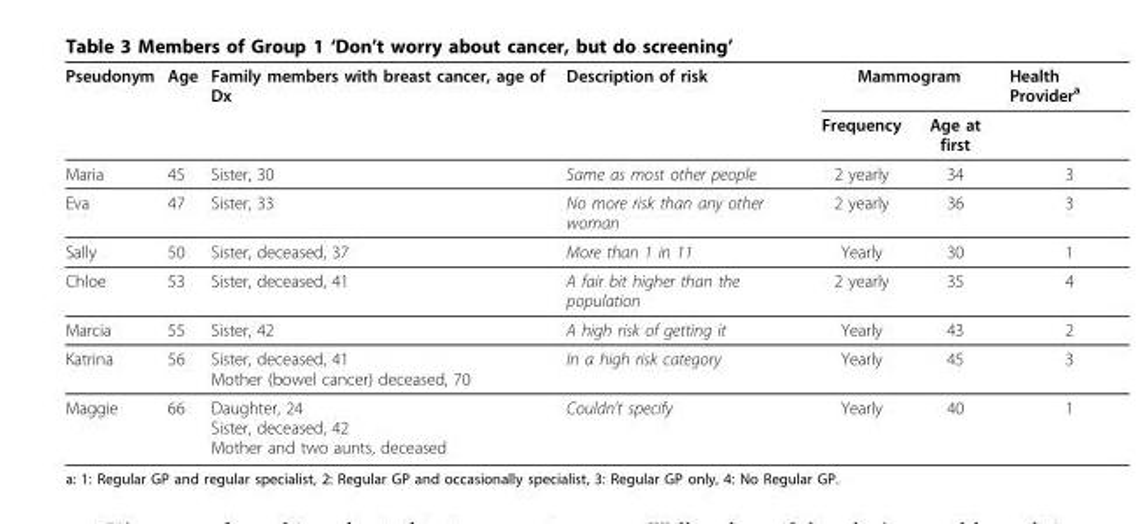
<table><thead><tr><td rowspan="2">Pseudonym</td><td rowspan="2">Age</td><td rowspan="2">Family members with breast cancer, age of Dx</td><td rowspan="2">Description of risk</td><td colspan="2">Mammogram</td><td rowspan="2">Health Provider<sup>a</sup></td></tr><tr><td>Frequency</td><td>Age at first</td></tr></thead><tbody><tr><td>Maria</td><td>45</td><td>Sister, 30</td><td>Same as most other people</td><td>2 yearly</td><td>34</td><td>3</td></tr><tr><td>Eva</td><td>47</td><td>Sister, 33</td><td>No more risk than any other woman</td><td>2 yearly</td><td>36</td><td>3</td></tr><tr><td>Sally</td><td>50</td><td>Sister, deceased, 37</td><td>More than 1 in 11</td><td>Yearly</td><td>30</td><td>1</td></tr><tr><td>Chloe</td><td>53</td><td>Sister, deceased, 41</td><td>A fair bit higher than the population</td><td>2 yearly</td><td>35</td><td>4</td></tr><tr><td>Marcia</td><td>55</td><td>Sister, 42</td><td>A high risk of getting it</td><td>Yearly</td><td>43</td><td>2</td></tr><tr><td>Katrina</td><td>56</td><td>Sister, deceased, 41 Mother (bowel cancer) deceased, 70</td><td>In a high risk category</td><td>Yearly</td><td>45</td><td>3</td></tr><tr><td>Maggie</td><td>66</td><td>Daughter, 24 Sister, deceased, 42 Mother and two aunts, deceased</td><td>Couldn’t specify</td><td>Yearly</td><td>40</td><td>1</td></tr></tbody></table>